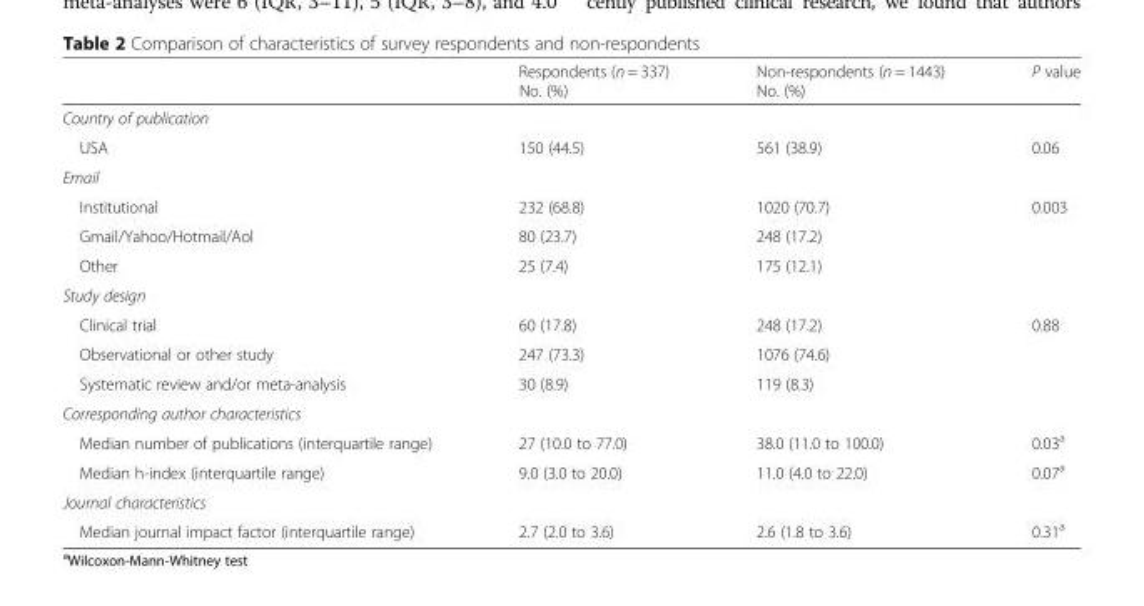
<table><thead><tr><td></td><td>Respondents (n = 337) No. (%)</td><td>Non-respondents (n = 1443) No. (%)</td><td>P value</td></tr></thead><tbody><tr><td colspan="4">Country of publication</td></tr><tr><td>USA</td><td>150 (44.5)</td><td>561 (38.9)</td><td>0.06</td></tr><tr><td colspan="4">Email</td></tr><tr><td>Institutional</td><td>232 (68.8)</td><td>1020 (70.7)</td><td rowspan="3">0.003</td></tr><tr><td>Gmail/Yahoo/Hotmail/Aol</td><td>80 (23.7)</td><td>248 (17.2)</td></tr><tr><td>Other</td><td>25 (7.4)</td><td>175 (12.1)</td></tr><tr><td colspan="4">Study design</td></tr><tr><td>Clinical trial</td><td>60 (17.8)</td><td>248 (17.2)</td><td rowspan="3">0.88</td></tr><tr><td>Observational or other study</td><td>247 (73.3)</td><td>1076 (74.6)</td></tr><tr><td>Systematic review and/or meta-analysis</td><td>30 (8.9)</td><td>119 (8.3)</td></tr><tr><td colspan="4">Corresponding author characteristics</td></tr><tr><td>Median number of publications (interquartile range)</td><td>27 (10.0 to 77.0)</td><td>38.0 (11.0 to 100.0)</td><td>0.03<sup>a</sup></td></tr><tr><td>Median h-index (interquartile range)</td><td>9.0 (3.0 to 20.0)</td><td>11.0 (4.0 to 22.0)</td><td>0.07<sup>a</sup></td></tr><tr><td colspan="4">Journal characteristics</td></tr><tr><td>Median journal impact factor (interquartile range)</td><td>2.7 (2.0 to 3.6)</td><td>2.6 (1.8 to 3.6)</td><td>0.31<sup>a</sup></td></tr></tbody></table>